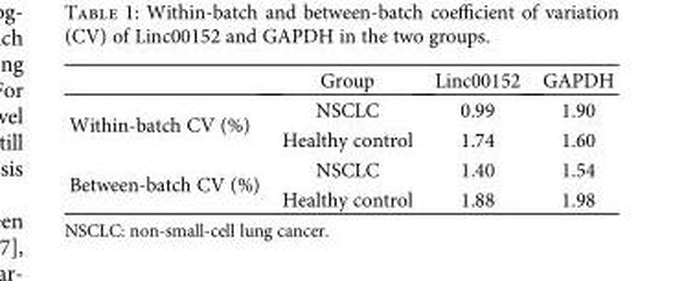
<table><thead><tr><td></td><td>Group</td><td>Linc00152</td><td>GAPDH</td></tr></thead><tbody><tr><td rowspan="2">Within-batch CV (%)</td><td>NSCLC</td><td>0.99</td><td>1.90</td></tr><tr><td>Healthy control</td><td>1.74</td><td>1.60</td></tr><tr><td rowspan="2">Between-batch CV (%)</td><td>NSCLC</td><td>1.40</td><td>1.54</td></tr><tr><td>Healthy control</td><td>1.88</td><td>1.98</td></tr></tbody></table>